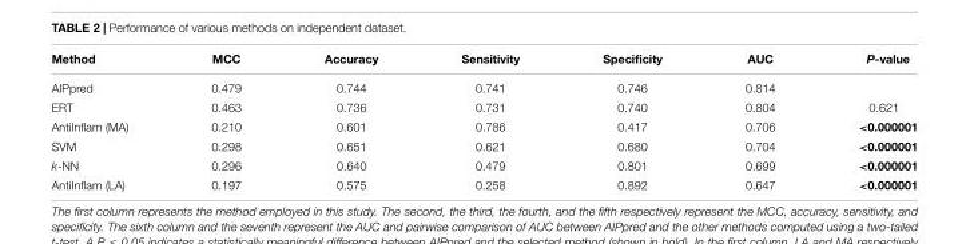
<table><thead><tr><td>Method</td><td>MCC</td><td>Accuracy</td><td>Sensitivity</td><td>Specificity</td><td>AUC</td><td>P-value</td></tr></thead><tbody><tr><td>AIPpred</td><td>0.479</td><td>0.744</td><td>0.741</td><td>0.746</td><td>0.814</td><td></td></tr><tr><td>ERT</td><td>0.463</td><td>0.736</td><td>0.731</td><td>0.740</td><td>0.804</td><td>0.621</td></tr><tr><td>AntiInflam (MA)</td><td>0.210</td><td>0.601</td><td>0.786</td><td>0.417</td><td>0.706</td><td>&lt;0.000001</td></tr><tr><td>SVM</td><td>0.298</td><td>0.651</td><td>0.621</td><td>0.680</td><td>0.704</td><td>&lt;0.000001</td></tr><tr><td>k-NN</td><td>0.296</td><td>0.640</td><td>0.479</td><td>0.801</td><td>0.699</td><td>&lt;0.000001</td></tr><tr><td>AntiInflam (LA)</td><td>0.197</td><td>0.575</td><td>0.258</td><td>0.892</td><td>0.647</td><td>&lt;0.000001</td></tr></tbody></table>